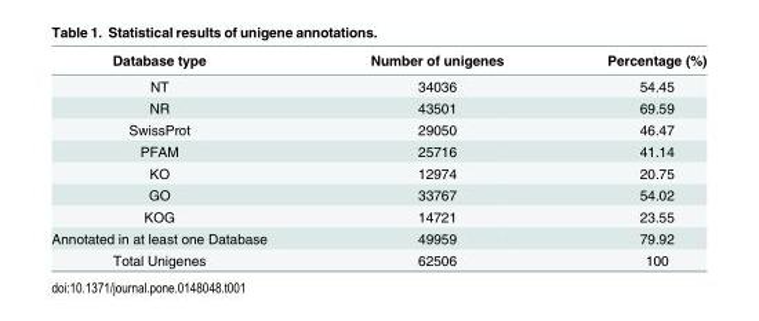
<table><thead><tr><td>Database type</td><td>Number of unigenes</td><td>Percentage (%)</td></tr></thead><tbody><tr><td>NT</td><td>34036</td><td>54.45</td></tr><tr><td>NR</td><td>43501</td><td>69.59</td></tr><tr><td>SwissProt</td><td>29050</td><td>46.47</td></tr><tr><td>PFAM</td><td>25716</td><td>41.14</td></tr><tr><td>KO</td><td>12974</td><td>20.75</td></tr><tr><td>GO</td><td>33767</td><td>54.02</td></tr><tr><td>KOG</td><td>14721</td><td>23.55</td></tr><tr><td>Annotated in at least one Database</td><td>49959</td><td>79.92</td></tr><tr><td>Total Unigenes</td><td>62506</td><td>100</td></tr></tbody></table>